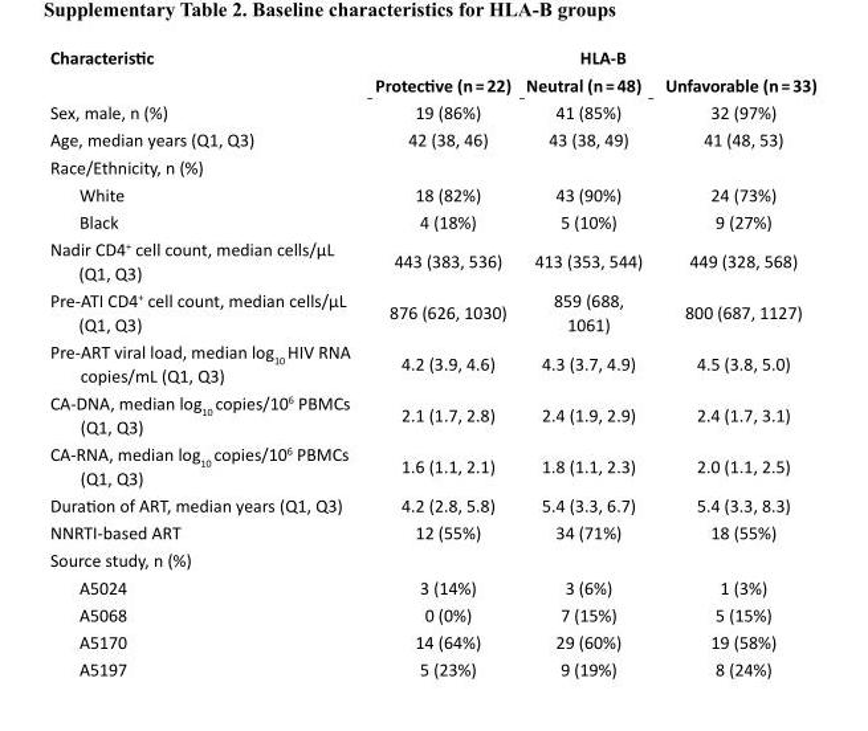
<table><thead><tr><td rowspan="2">Characteristic</td><td colspan="3">HLA-B</td></tr><tr><td>Protective (n = 22)</td><td>Neutral (n = 48)</td><td>Unfavorable (n = 33)</td></tr></thead><tbody><tr><td>Sex, male, n (%)</td><td>19 (86%)</td><td>41 (85%)</td><td>32 (97%)</td></tr><tr><td>Age, median years (Q1, Q3)</td><td>42 (38, 46)</td><td>43 (38, 49)</td><td>41 (48, 53)</td></tr><tr><td colspan="4">Race/Ethnicity, n (%)</td></tr><tr><td>White</td><td>18 (82%)</td><td>43 (90%)</td><td>24 (73%)</td></tr><tr><td>Black</td><td>4 (18%)</td><td>5 (10%)</td><td>9 (27%)</td></tr><tr><td>Nadir CD4+ cell count, median cells/µL (Q1, Q3)</td><td>443 (383, 536)</td><td>413 (353, 544)</td><td>449 (328, 568)</td></tr><tr><td>Pre-ATI CD4+ cell count, median cells/µL (Q1, Q3)</td><td>876 (626, 1030)</td><td>859 (688, 1061)</td><td>800 (687, 1127)</td></tr><tr><td>Pre-ART viral load, median log10 HIV RNA copies/mL (Q1, Q3)</td><td>4.2 (3.9, 4.6)</td><td>4.3 (3.7, 4.9)</td><td>4.5 (3.8, 5.0)</td></tr><tr><td>CA-DNA, median log10 copies/106 PBMCs (Q1, Q3)</td><td>2.1 (1.7, 2.8)</td><td>2.4 (1.9, 2.9)</td><td>2.4 (1.7, 3.1)</td></tr><tr><td>CA-RNA, median log10 copies/106 PBMCs (Q1, Q3)</td><td>1.6 (1.1, 2.1)</td><td>1.8 (1.1, 2.3)</td><td>2.0 (1.1, 2.5)</td></tr><tr><td>Duration of ART, median years (Q1, Q3)</td><td>4.2 (2.8, 5.8)</td><td>5.4 (3.3, 6.7)</td><td>5.4 (3.3, 8.3)</td></tr><tr><td>NNRTI-based ART</td><td>12 (55%)</td><td>34 (71%)</td><td>18 (55%)</td></tr><tr><td colspan="4">Source study, n (%)</td></tr><tr><td>A5024</td><td>3 (14%)</td><td>3 (6%)</td><td>1 (3%)</td></tr><tr><td>A5068</td><td>0 (0%)</td><td>7 (15%)</td><td>5 (15%)</td></tr><tr><td>A5170</td><td>14 (64%)</td><td>29 (60%)</td><td>19 (58%)</td></tr><tr><td>A5197</td><td>5 (23%)</td><td>9 (19%)</td><td>8 (24%)</td></tr></tbody></table>